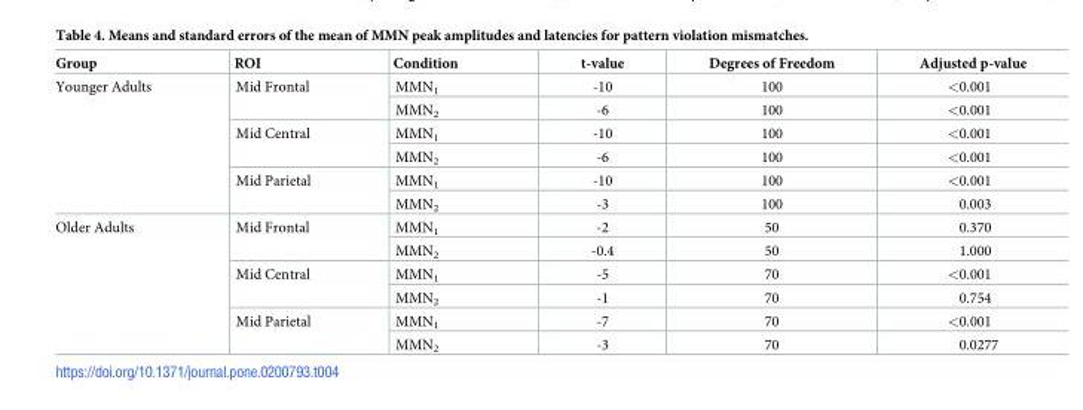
<table><thead><tr><td>Group</td><td>ROI</td><td>Condition</td><td>t-value</td><td>Degrees of Freedom</td><td>Adjusted p-value</td></tr></thead><tbody><tr><td rowspan="6">Younger Adults</td><td rowspan="2">Mid Frontal</td><td>MMN<sub>1</sub></td><td>-10</td><td>100</td><td>&lt;0.001</td></tr><tr><td>MMN<sub>2</sub></td><td>-6</td><td>100</td><td>&lt;0.001</td></tr><tr><td rowspan="2">Mid Central</td><td>MMN<sub>1</sub></td><td>-10</td><td>100</td><td>&lt;0.001</td></tr><tr><td>MMN<sub>2</sub></td><td>-6</td><td>100</td><td>&lt;0.001</td></tr><tr><td rowspan="2">Mid Parietal</td><td>MMN<sub>1</sub></td><td>-10</td><td>100</td><td>&lt;0.001</td></tr><tr><td>MMN<sub>2</sub></td><td>-3</td><td>100</td><td>0.003</td></tr><tr><td rowspan="6">Older Adults</td><td rowspan="2">Mid Frontal</td><td>MMN<sub>1</sub></td><td>-2</td><td>50</td><td>0.370</td></tr><tr><td>MMN<sub>2</sub></td><td>-0.4</td><td>50</td><td>1.000</td></tr><tr><td rowspan="2">Mid Central</td><td>MMN<sub>1</sub></td><td>-5</td><td>70</td><td>&lt;0.001</td></tr><tr><td>MMN<sub>2</sub></td><td>-1</td><td>70</td><td>0.754</td></tr><tr><td rowspan="2">Mid Parietal</td><td>MMN<sub>1</sub></td><td>-7</td><td>70</td><td>&lt;0.001</td></tr><tr><td>MMN<sub>2</sub></td><td>-3</td><td>70</td><td>0.0277</td></tr></tbody></table>